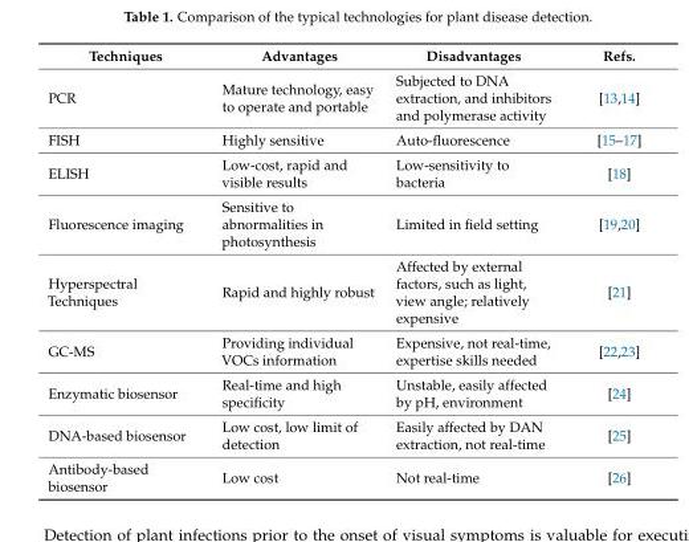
<table><thead><tr><td>Techniques</td><td>Advantages</td><td>Disadvantages</td><td>Refs.</td></tr></thead><tbody><tr><td>PCR</td><td>Mature technology, easy to operate and portable</td><td>Subjected to DNA extraction, and inhibitors and polymerase activity</td><td>[13,14]</td></tr><tr><td>FISH</td><td>Highly sensitive</td><td>Auto-fluorescence</td><td>[15–17]</td></tr><tr><td>ELISH</td><td>Low-cost, rapid and visible results</td><td>Low-sensitivity to bacteria</td><td>[18]</td></tr><tr><td>Fluorescence imaging</td><td>Sensitive to abnormalities in photosynthesis</td><td>Limited in field setting</td><td>[19,20]</td></tr><tr><td>Hyperspectral Techniques</td><td>Rapid and highly robust</td><td>Affected by external factors, such as light, view angle; relatively expensive</td><td>[21]</td></tr><tr><td>GC-MS</td><td>Providing individual VOCs information</td><td>Expensive, not real-time, expertise skills needed</td><td>[22,23]</td></tr><tr><td>Enzymatic biosensor</td><td>Real-time and high specificity</td><td>Unstable, easily affected by pH, environment</td><td>[24]</td></tr><tr><td>DNA-based biosensor</td><td>Low cost, low limit of detection</td><td>Easily affected by DAN extraction, not real-time</td><td>[25]</td></tr><tr><td>Antibody-based biosensor</td><td>Low cost</td><td>Not real-time</td><td>[26]</td></tr></tbody></table>